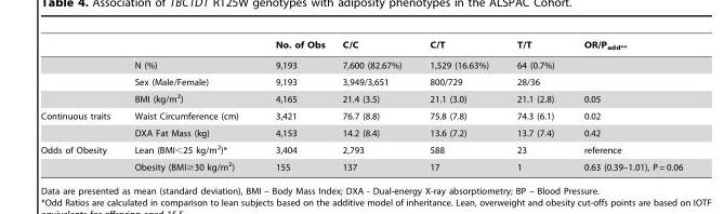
<table><thead><tr><td></td><td></td><td>No. of Obs</td><td>C/C</td><td>C/T</td><td>T/T</td><td>OR/P<sub>add</sub>**</td></tr></thead><tbody><tr><td></td><td>N (%)</td><td>9,193</td><td>7,600 (82.67%)</td><td>1,529 (16.63%)</td><td>64 (0.7%)</td><td></td></tr><tr><td></td><td>Sex (Male/Female)</td><td>9,193</td><td>3,949/3,651</td><td>800/729</td><td>28/36</td><td></td></tr><tr><td></td><td>BMI (kg/m<sup>2</sup>)</td><td>4,165</td><td>21.4 (3.5)</td><td>21.1 (3.0)</td><td>21.1 (2.8)</td><td>0.05</td></tr><tr><td rowspan="2">Continuous traits</td><td>Waist Circumference (cm)</td><td>3,421</td><td>76.7 (8.8)</td><td>75.8 (7.8)</td><td>74.3 (6.1)</td><td>0.02</td></tr><tr><td>DXA Fat Mass (kg)</td><td>4,153</td><td>14.2 (8.4)</td><td>13.6 (7.2)</td><td>13.7 (7.4)</td><td>0.42</td></tr><tr><td rowspan="2">Odds of Obesity</td><td>Lean (BMI&lt;25 kg/m<sup>2</sup>)*</td><td>3,404</td><td>2,793</td><td>588</td><td>23</td><td>reference</td></tr><tr><td>Obesity (BMI≥30 kg/m<sup>2</sup>)</td><td>155</td><td>137</td><td>17</td><td>1</td><td>0.63 (0.39–1.01), P = 0.06</td></tr></tbody></table>